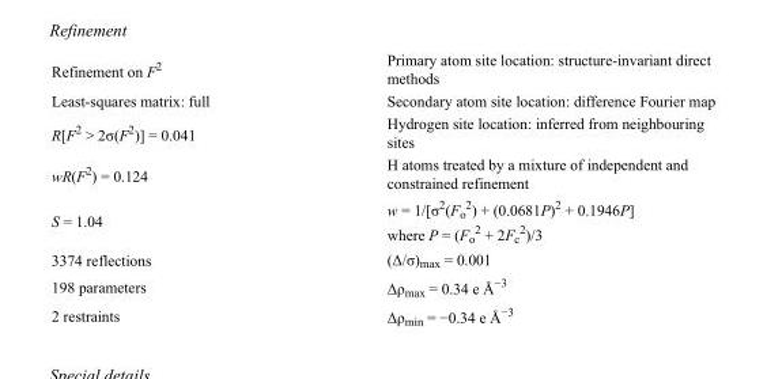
<table><tbody><tr><td>Refinement on F<sup>2</sup></td><td>Primary atom site location: structure-invariant direct methods</td></tr><tr><td>Least-squares matrix: full</td><td>Secondary atom site location: difference Fourier map</td></tr><tr><td>R[F<sup>2</sup> &gt; 2σ(F<sup>2</sup>)] = 0.041</td><td>Hydrogen site location: inferred from neighbouring sites</td></tr><tr><td>wR(F<sup>2</sup>) = 0.124</td><td>H atoms treated by a mixture of independent and constrained refinement</td></tr><tr><td>S = 1.04</td><td>w = 1/[σ<sup>2</sup>(F<sub>o</sub> <sup>2</sup>) + (0.0681P)<sup>2</sup> + 0.1946P] where P = (F<sub>o</sub> <sup>2</sup> + 2F<sub>c</sub> <sup>2</sup>)/3</td></tr><tr><td>3374 reflections</td><td>(Δ/σ)<sub>max</sub> = 0.001</td></tr><tr><td>198 parameters</td><td>Δρ<sub>max</sub> = 0.34 e Å<sup>−3</sup></td></tr><tr><td>2 restraints</td><td>Δρ<sub>min</sub> = −0.34 e Å<sup>−3</sup></td></tr></tbody></table>